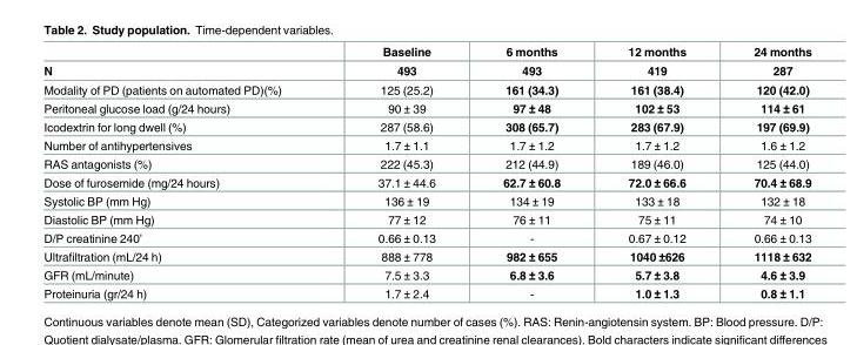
<table><thead><tr><td rowspan="2">N</td><td rowspan="2">Baseline 493</td><td rowspan="2">6 months 493</td><td rowspan="2">12 months 419</td><td rowspan="2">24 months 287</td></tr><tr></tr></thead><tbody><tr><td>Modality of PD (patients on automated PD)(%)</td><td>125 (25.2)</td><td>161 (34.3)</td><td>161 (38.4)</td><td>120 (42.0)</td></tr><tr><td>Peritoneal glucose load (g/24 hours)</td><td>90 ± 39</td><td>97 ± 48</td><td>102 ± 53</td><td>114 ± 61</td></tr><tr><td>Icodextrin for long dwell (%)</td><td>287 (58.6)</td><td>308 (65.7)</td><td>283 (67.9)</td><td>197 (69.9)</td></tr><tr><td>Number of antihypertensives</td><td>1.7 ± 1.1</td><td>1.7 ± 1.2</td><td>1.7 ± 1.2</td><td>1.6 ± 1.2</td></tr><tr><td>RAS antagonists (%)</td><td>222 (45.3)</td><td>212 (44.9)</td><td>189 (46.0)</td><td>125 (44.0)</td></tr><tr><td>Dose of furosemide (mg/24 hours)</td><td>37.1 ± 44.6</td><td>62.7 ± 60.8</td><td>72.0 ± 66.6</td><td>70.4 ± 68.9</td></tr><tr><td>Systolic BP (mm Hg)</td><td>136 ± 19</td><td>134 ± 19</td><td>133 ± 18</td><td>132 ± 18</td></tr><tr><td>Diastolic BP (mm Hg)</td><td>77 ± 12</td><td>76 ± 11</td><td>75 ± 11</td><td>74 ± 10</td></tr><tr><td>D/P creatinine 240’</td><td>0.66 ± 0.13</td><td>-</td><td>0.67 ± 0.12</td><td>0.66 ± 0.13</td></tr><tr><td>Ultrafiltration (mL/24 h)</td><td>888 ± 778</td><td>982 ± 655</td><td>1040 ±626</td><td>1118 ± 632</td></tr><tr><td>GFR (mL/minute)</td><td>7.5 ± 3.3</td><td>6.8 ± 3.6</td><td>5.7 ± 3.8</td><td>4.6 ± 3.9</td></tr><tr><td>Proteinuria (gr/24 h)</td><td>1.7 ± 2.4</td><td>-</td><td>1.0 ± 1.3</td><td>0.8 ± 1.1</td></tr></tbody></table>